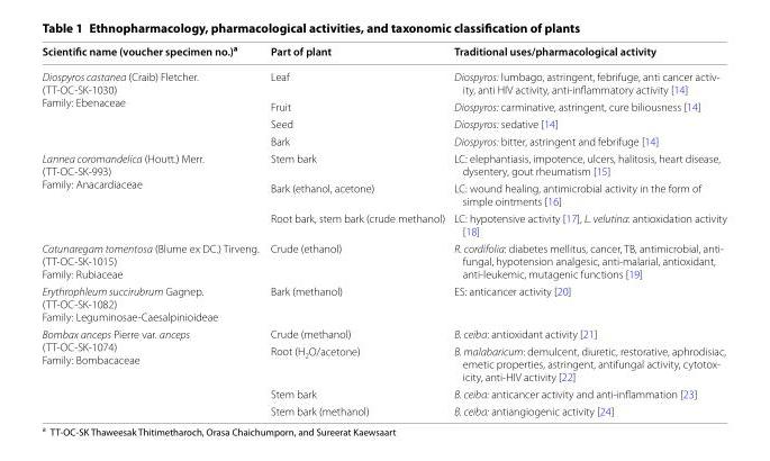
<table><thead><tr><td>Scientific name (voucher specimen no.)<sup>a</sup></td><td>Part of plant</td><td>Traditional uses/pharmacological activity</td></tr></thead><tbody><tr><td rowspan="4">Diospyros castanea (Craib) Fletcher. (TT-OC-SK-1030) Family: Ebenaceae</td><td>Leaf</td><td>Diospyros: lumbago, astringent, febrifuge, anti cancer activ- ity, anti HIV activity, anti-inflammatory activity [14]</td></tr><tr><td>Fruit</td><td>Diospyros: carminative, astringent, cure biliousness [14]</td></tr><tr><td>Seed</td><td>Diospyros: sedative [14]</td></tr><tr><td>Bark</td><td>Diospyros: bitter, astringent and febrifuge [14]</td></tr><tr><td rowspan="3">Lannea coromandelica (Houtt.) Merr. (TT-OC-SK-993) Family: Anacardiaceae</td><td>Stem bark</td><td>LC: elephantiasis, impotence, ulcers, halitosis, heart disease, dysentery, gout rheumatism [15]</td></tr><tr><td>Bark (ethanol, acetone)</td><td>LC: wound healing, antimicrobial activity in the form of simple ointments [16]</td></tr><tr><td>Root bark, stem bark (crude methanol)</td><td>LC: hypotensive activity [17], L. velutina: antioxidation activity [18]</td></tr><tr><td>Catunaregam tomentosa (Blume ex DC.) Tirveng. (TT-OC-SK-1015) Family: Rubiaceae</td><td>Crude (ethanol)</td><td>R. cordifolia: diabetes mellitus, cancer, TB, antimicrobial, anti- fungal, hypotension analgesic, anti-malarial, antioxidant, anti-leukemic, mutagenic functions [19]</td></tr><tr><td>Erythrophleum succirubrum Gagnep. (TT-OC-SK-1082) Family: Leguminosae-Caesalpinioideae</td><td>Bark (methanol)</td><td>ES: anticancer activity [20]</td></tr><tr><td rowspan="4">Bombax anceps Pierre var. anceps (TT-OC-SK-1074) Family: Bombacaceae</td><td>Crude (methanol)</td><td>B. ceiba: antioxidant activity [21]</td></tr><tr><td>Root (H<sub>2</sub>O/acetone)</td><td>B. malabaricum: demulcent, diuretic, restorative, aphrodisiac, emetic properties, astringent, antifungal activity, cytotox- icity, anti-HIV activity [22]</td></tr><tr><td>Stem bark</td><td>B. ceiba: anticancer activity and anti-inflammation [23]</td></tr><tr><td>Stem bark (methanol)</td><td>B. ceiba: antiangiogenic activity [24]</td></tr></tbody></table>